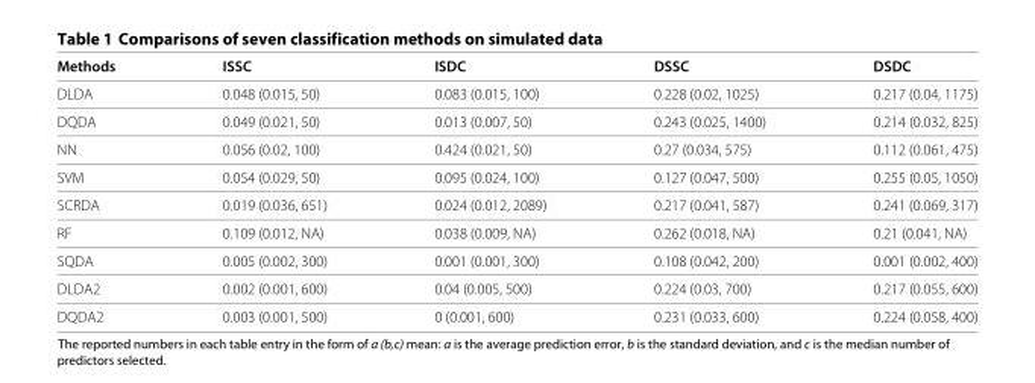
<table><thead><tr><td>Methods</td><td>ISSC</td><td>ISDC</td><td>DSSC</td><td>DSDC</td></tr></thead><tbody><tr><td>DLDA</td><td>0.048 (0.015, 50)</td><td>0.083 (0.015, 100)</td><td>0.228 (0.02, 1025)</td><td>0.217 (0.04, 1175)</td></tr><tr><td>DQDA</td><td>0.049 (0.021, 50)</td><td>0.013 (0.007, 50)</td><td>0.243 (0.025, 1400)</td><td>0.214 (0.032, 825)</td></tr><tr><td>NN</td><td>0.056 (0.02, 100)</td><td>0.424 (0.021, 50)</td><td>0.27 (0.034, 575)</td><td>0.112 (0.061, 475)</td></tr><tr><td>SVM</td><td>0.054 (0.029, 50)</td><td>0.095 (0.024, 100)</td><td>0.127 (0.047, 500)</td><td>0.255 (0.05, 1050)</td></tr><tr><td>SCRDA</td><td>0.019 (0.036, 651)</td><td>0.024 (0.012, 2089)</td><td>0.217 (0.041, 587)</td><td>0.241 (0.069, 317)</td></tr><tr><td>RF</td><td>0.109 (0.012, NA)</td><td>0.038 (0.009, NA)</td><td>0.262 (0.018, NA)</td><td>0.21 (0.041, NA)</td></tr><tr><td>SQDA</td><td>0.005 (0.002, 300)</td><td>0.001 (0.001, 300)</td><td>0.108 (0.042, 200)</td><td>0.001 (0.002, 400)</td></tr><tr><td>DLDA2</td><td>0.002 (0.001, 600)</td><td>0.04 (0.005, 500)</td><td>0.224 (0.03, 700)</td><td>0.217 (0.055, 600)</td></tr><tr><td>DQDA2</td><td>0.003 (0.001, 500)</td><td>0 (0.001, 600)</td><td>0.231 (0.033, 600)</td><td>0.224 (0.058, 400)</td></tr></tbody></table>